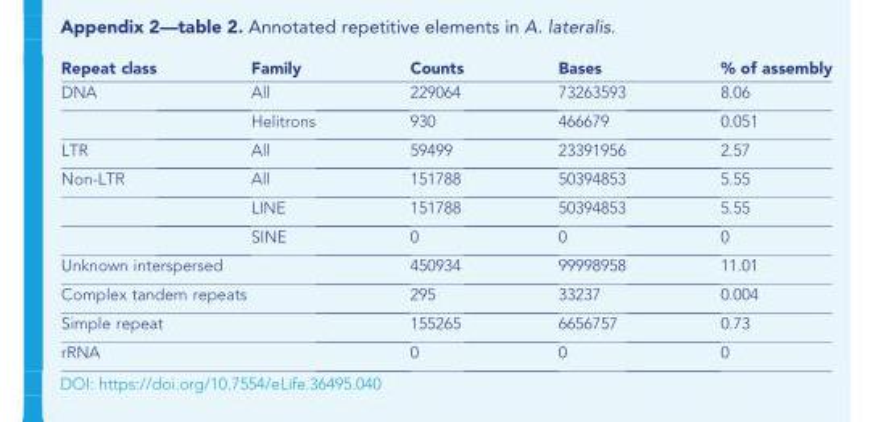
<table><thead><tr><td>Repeat class</td><td>Family</td><td>Counts</td><td>Bases</td><td>% of assembly</td></tr></thead><tbody><tr><td rowspan="2">DNA</td><td>All</td><td>229064</td><td>73263593</td><td>8.06</td></tr><tr><td>Helitrons</td><td>930</td><td>466679</td><td>0.051</td></tr><tr><td>LTR</td><td>All</td><td>59499</td><td>23391956</td><td>2.57</td></tr><tr><td rowspan="3">Non-LTR</td><td>All</td><td>151788</td><td>50394853</td><td>5.55</td></tr><tr><td>LINE</td><td>151788</td><td>50394853</td><td>5.55</td></tr><tr><td>SINE</td><td>0</td><td>0</td><td>0</td></tr><tr><td colspan="2">Unknown interspersed</td><td>450934</td><td>99998958</td><td>11.01</td></tr><tr><td colspan="2">Complex tandem repeats</td><td>295</td><td>33237</td><td>0.004</td></tr><tr><td colspan="2">Simple repeat</td><td>155265</td><td>6656757</td><td>0.73</td></tr><tr><td colspan="2">rRNA</td><td>0</td><td>0</td><td>0</td></tr></tbody></table>